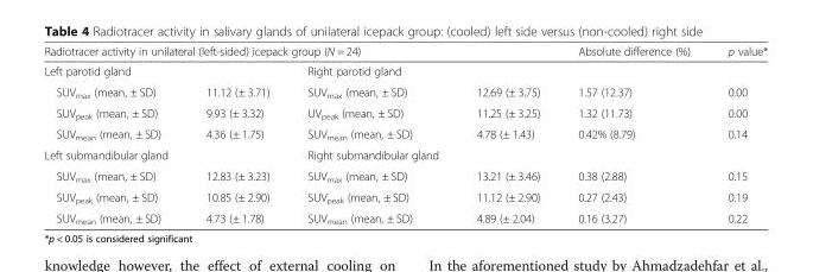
<table><thead><tr><td colspan="4">Radiotracer activity in unilateral (left-sided) icepack group (N = 24)</td><td rowspan="2">Absolute difference (%)</td><td rowspan="2">p value*</td></tr><tr><td>Left parotid gland</td><td></td><td>Right parotid gland</td><td></td></tr></thead><tbody><tr><td>SUV<sub>max</sub> (mean, ± SD)</td><td>11.12 (± 3.71)</td><td>SUV<sub>max</sub> (mean, ± SD)</td><td>12.69 (± 3.75)</td><td>1.57 (12.37)</td><td>0.00</td></tr><tr><td>SUV<sub>peak</sub> (mean, ± SD)</td><td>9.93 (± 3.32)</td><td>UV<sub>peak</sub> (mean, ± SD)</td><td>11.25 (± 3.25)</td><td>1.32 (11.73)</td><td>0.00</td></tr><tr><td>SUV<sub>mean</sub> (mean, ± SD)</td><td>4.36 (± 1.75)</td><td>SUV<sub>mean</sub> (mean, ± SD)</td><td>4.78 (± 1.43)</td><td>0.42% (8.79)</td><td>0.14</td></tr><tr><td>Left submandibular gland</td><td></td><td>Right submandibular gland</td><td></td><td></td><td></td></tr><tr><td>SUV<sub>max</sub> (mean, ± SD)</td><td>12.83 (± 3.23)</td><td>SUV<sub>max</sub> (mean, ± SD)</td><td>13.21 (± 3.46)</td><td>0.38 (2.88)</td><td>0.15</td></tr><tr><td>SUV<sub>peak</sub> (mean, ± SD)</td><td>10.85 (± 2.90)</td><td>SUV<sub>peak</sub> (mean, ± SD)</td><td>11.12 (± 2.90)</td><td>0.27 (2.43)</td><td>0.19</td></tr><tr><td>SUV<sub>mean</sub> (mean, ± SD)</td><td>4.73 (± 1.78)</td><td>SUV<sub>mean</sub> (mean, ± SD)</td><td>4.89 (± 2.04)</td><td>0.16 (3.27)</td><td>0.22</td></tr></tbody></table>